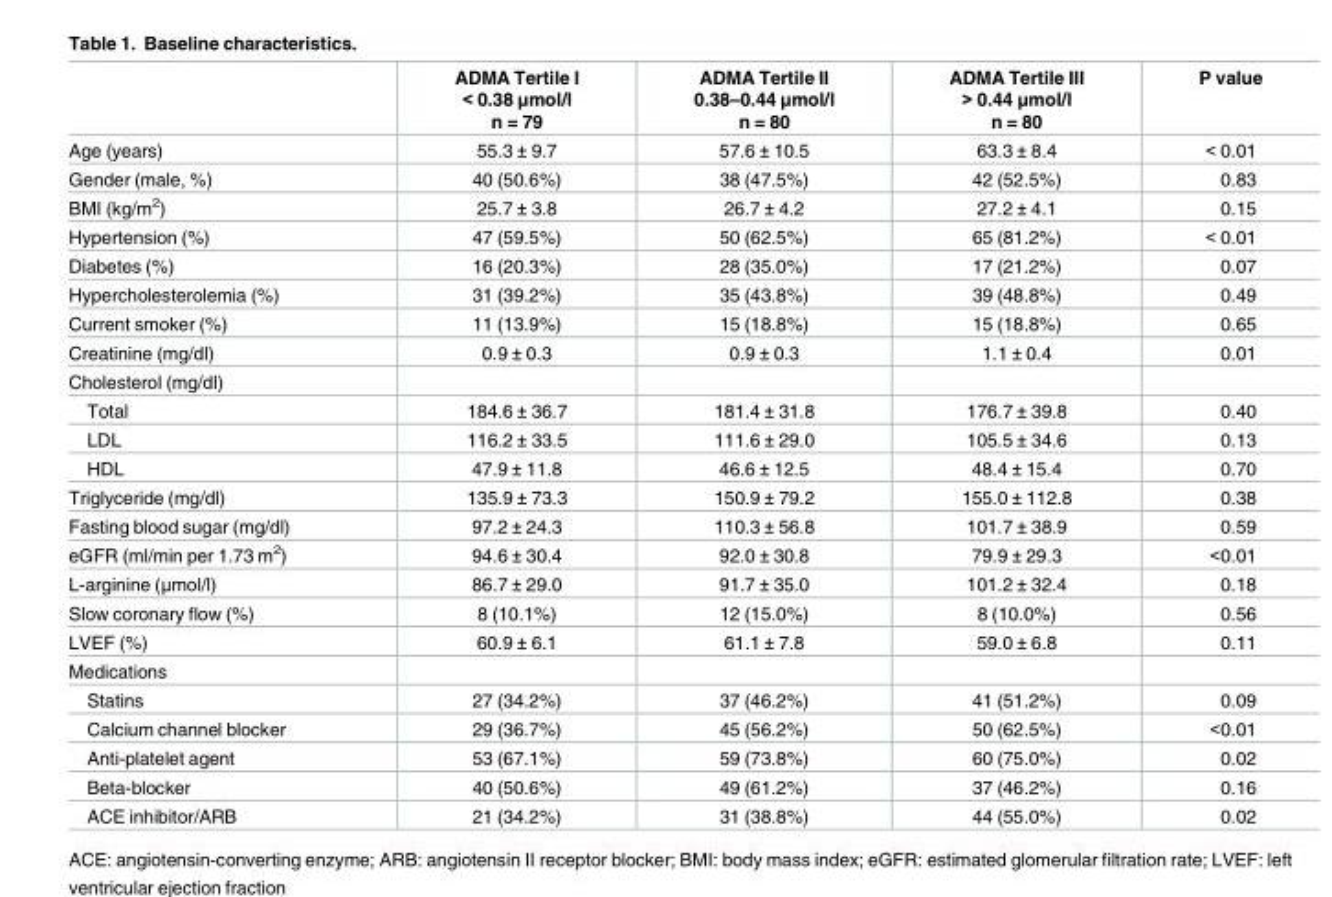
<table><thead><tr><td></td><td>ADMA Tertile I &lt; 0.38 μmol/l n = 79</td><td>ADMA Tertile II 0.38–0.44 μmol/l n = 80</td><td>ADMA Tertile III &gt; 0.44 μmol/l n = 80</td><td>P value</td></tr></thead><tbody><tr><td>Age (years)</td><td>55.3 ± 9.7</td><td>57.6 ± 10.5</td><td>63.3 ± 8.4</td><td>&lt; 0.01</td></tr><tr><td>Gender (male, %)</td><td>40 (50.6%)</td><td>38 (47.5%)</td><td>42 (52.5%)</td><td>0.83</td></tr><tr><td>BMI (kg/m<sup>2</sup>)</td><td>25.7 ± 3.8</td><td>26.7 ± 4.2</td><td>27.2 ± 4.1</td><td>0.15</td></tr><tr><td>Hypertension (%)</td><td>47 (59.5%)</td><td>50 (62.5%)</td><td>65 (81.2%)</td><td>&lt; 0.01</td></tr><tr><td>Diabetes (%)</td><td>16 (20.3%)</td><td>28 (35.0%)</td><td>17 (21.2%)</td><td>0.07</td></tr><tr><td>Hypercholesterolemia (%)</td><td>31 (39.2%)</td><td>35 (43.8%)</td><td>39 (48.8%)</td><td>0.49</td></tr><tr><td>Current smoker (%)</td><td>11 (13.9%)</td><td>15 (18.8%)</td><td>15 (18.8%)</td><td>0.65</td></tr><tr><td>Creatinine (mg/dl)</td><td>0.9 ± 0.3</td><td>0.9 ± 0.3</td><td>1.1 ± 0.4</td><td>0.01</td></tr><tr><td colspan="5">Cholesterol (mg/dl)</td></tr><tr><td>Total</td><td>184.6 ± 36.7</td><td>181.4 ± 31.8</td><td>176.7 ± 39.8</td><td>0.40</td></tr><tr><td>LDL</td><td>116.2 ± 33.5</td><td>111.6 ± 29.0</td><td>105.5 ± 34.6</td><td>0.13</td></tr><tr><td>HDL</td><td>47.9 ± 11.8</td><td>46.6 ± 12.5</td><td>48.4 ± 15.4</td><td>0.70</td></tr><tr><td>Triglyceride (mg/dl)</td><td>135.9 ± 73.3</td><td>150.9 ± 79.2</td><td>155.0 ± 112.8</td><td>0.38</td></tr><tr><td>Fasting blood sugar (mg/dl)</td><td>97.2 ± 24.3</td><td>110.3 ± 56.8</td><td>101.7 ± 38.9</td><td>0.59</td></tr><tr><td>eGFR (ml/min per 1.73 m<sup>2</sup>)</td><td>94.6 ± 30.4</td><td>92.0 ± 30.8</td><td>79.9 ± 29.3</td><td>&lt;0.01</td></tr><tr><td>L-arginine (μmol/l)</td><td>86.7 ± 29.0</td><td>91.7 ± 35.0</td><td>101.2 ± 32.4</td><td>0.18</td></tr><tr><td>Slow coronary flow (%)</td><td>8 (10.1%)</td><td>12 (15.0%)</td><td>8 (10.0%)</td><td>0.56</td></tr><tr><td>LVEF (%)</td><td>60.9 ± 6.1</td><td>61.1 ± 7.8</td><td>59.0 ± 6.8</td><td>0.11</td></tr><tr><td colspan="5">Medications</td></tr><tr><td>Statins</td><td>27 (34.2%)</td><td>37 (46.2%)</td><td>41 (51.2%)</td><td>0.09</td></tr><tr><td>Calcium channel blocker</td><td>29 (36.7%)</td><td>45 (56.2%)</td><td>50 (62.5%)</td><td>&lt;0.01</td></tr><tr><td>Anti-platelet agent</td><td>53 (67.1%)</td><td>59 (73.8%)</td><td>60 (75.0%)</td><td>0.02</td></tr><tr><td>Beta-blocker</td><td>40 (50.6%)</td><td>49 (61.2%)</td><td>37 (46.2%)</td><td>0.16</td></tr><tr><td>ACE inhibitor/ARB</td><td>21 (34.2%)</td><td>31 (38.8%)</td><td>44 (55.0%)</td><td>0.02</td></tr></tbody></table>